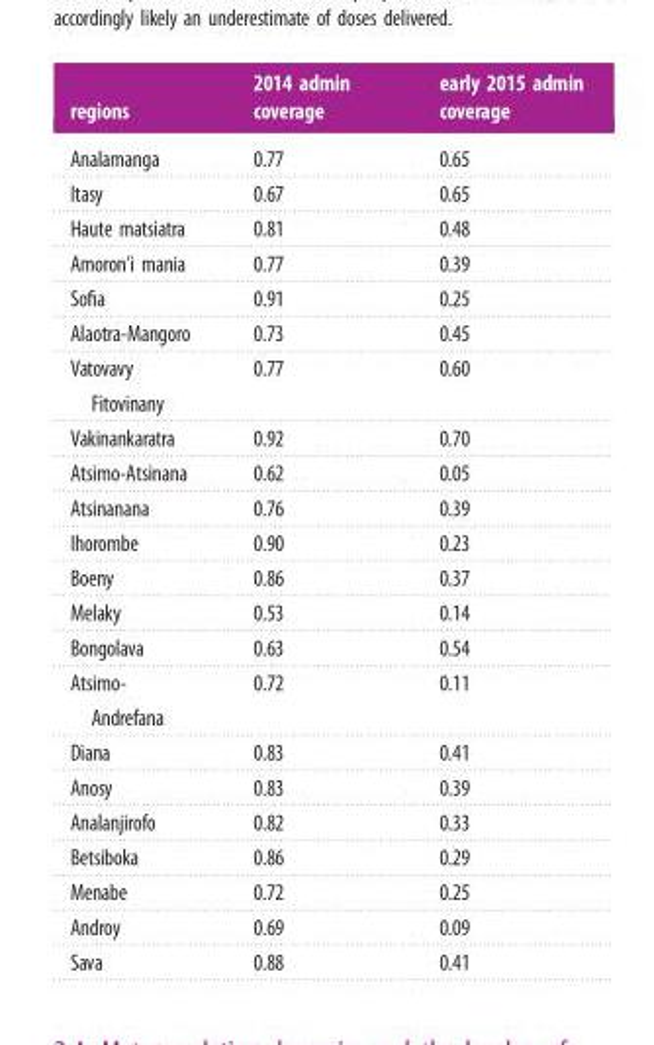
<table><thead><tr><td>regions</td><td>2014 admin coverage</td><td>early 2015 admin coverage</td></tr></thead><tbody><tr><td>Analamanga</td><td>0.77</td><td>0.65</td></tr><tr><td>Itasy</td><td>0.67</td><td>0.65</td></tr><tr><td>Haute matsiatra</td><td>0.81</td><td>0.48</td></tr><tr><td>Amoron’i mania</td><td>0.77</td><td>0.39</td></tr><tr><td>Sofia</td><td>0.91</td><td>0.25</td></tr><tr><td>Alaotra-Mangoro</td><td>0.73</td><td>0.45</td></tr><tr><td>Vatovavy Fitovinany</td><td>0.77</td><td>0.60</td></tr><tr><td>Vakinankaratra</td><td>0.92</td><td>0.70</td></tr><tr><td>Atsimo-Atsinana</td><td>0.62</td><td>0.05</td></tr><tr><td>Atsinanana</td><td>0.76</td><td>0.39</td></tr><tr><td>Ihorombe</td><td>0.90</td><td>0.23</td></tr><tr><td>Boeny</td><td>0.86</td><td>0.37</td></tr><tr><td>Melaky</td><td>0.53</td><td>0.14</td></tr><tr><td>Bongolava</td><td>0.63</td><td>0.54</td></tr><tr><td>Atsimo- Andrefana</td><td>0.72</td><td>0.11</td></tr><tr><td>Diana</td><td>0.83</td><td>0.41</td></tr><tr><td>Anosy</td><td>0.83</td><td>0.39</td></tr><tr><td>Analanjirofo</td><td>0.82</td><td>0.33</td></tr><tr><td>Betsiboka</td><td>0.86</td><td>0.29</td></tr><tr><td>Menabe</td><td>0.72</td><td>0.25</td></tr><tr><td>Androy</td><td>0.69</td><td>0.09</td></tr><tr><td>Sava</td><td>0.88</td><td>0.41</td></tr></tbody></table>